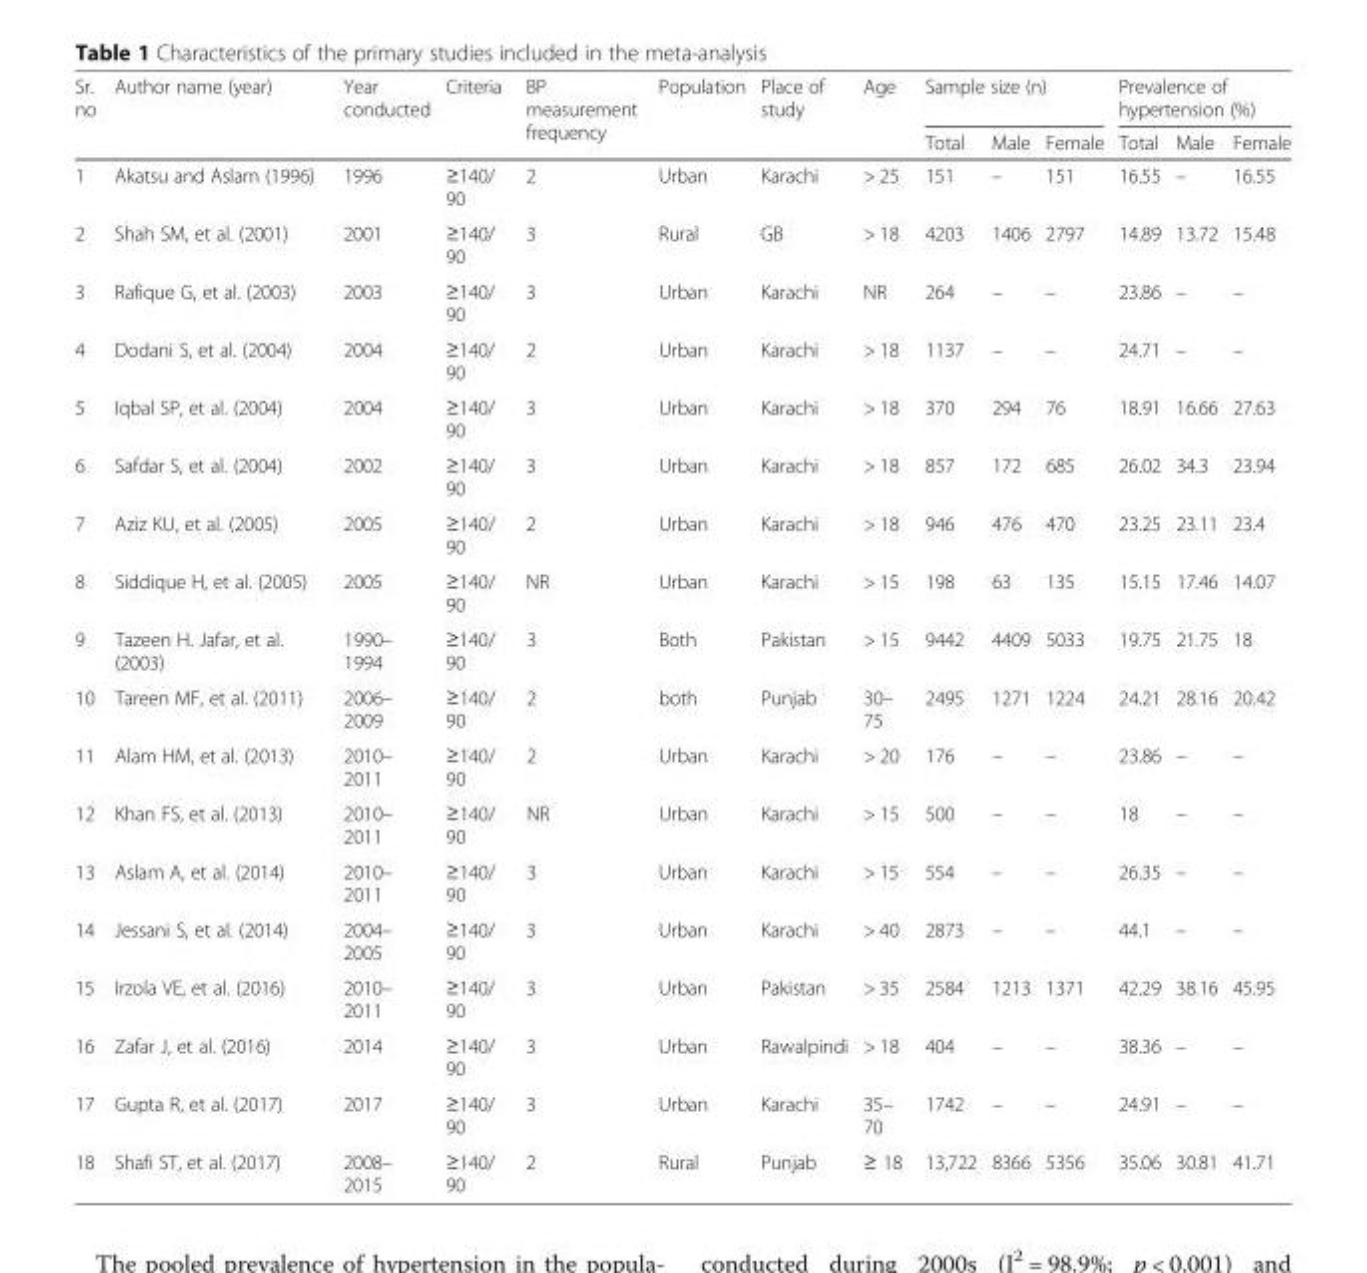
<table><thead><tr><td rowspan="2">Sr. no</td><td rowspan="2">Author name (year)</td><td rowspan="2">Year conducted</td><td rowspan="2">Criteria</td><td rowspan="2">BP measurement frequency</td><td rowspan="2">Population</td><td rowspan="2">Place of study</td><td rowspan="2">Age</td><td colspan="3">Sample size (n)</td><td colspan="3">Prevalence of hypertension (%)</td></tr><tr><td>Total</td><td>Male</td><td>Female</td><td>Total</td><td>Male</td><td>Female</td></tr></thead><tbody><tr><td>1</td><td>Akatsu and Aslam (1996)</td><td>1996</td><td>≥140/ 90</td><td>2</td><td>Urban</td><td>Karachi</td><td>&gt; 25</td><td>151</td><td>–</td><td>151</td><td>16.55</td><td>–</td><td>16.55</td></tr><tr><td>2</td><td>Shah SM, et al. (2001)</td><td>2001</td><td>≥140/ 90</td><td>3</td><td>Rural</td><td>GB</td><td>&gt; 18</td><td>4203</td><td>1406</td><td>2797</td><td>14.89</td><td>13.72</td><td>15.48</td></tr><tr><td>3</td><td>Rafique G, et al. (2003)</td><td>2003</td><td>≥140/ 90</td><td>3</td><td>Urban</td><td>Karachi</td><td>NR</td><td>264</td><td>–</td><td>–</td><td>23.86</td><td>–</td><td>–</td></tr><tr><td>4</td><td>Dodani S, et al. (2004)</td><td>2004</td><td>≥140/ 90</td><td>2</td><td>Urban</td><td>Karachi</td><td>&gt; 18</td><td>1137</td><td>–</td><td>–</td><td>24.71</td><td>–</td><td>–</td></tr><tr><td>5</td><td>Iqbal SP, et al. (2004)</td><td>2004</td><td>≥140/ 90</td><td>3</td><td>Urban</td><td>Karachi</td><td>&gt; 18</td><td>370</td><td>294</td><td>76</td><td>18.91</td><td>16.66</td><td>27.63</td></tr><tr><td>6</td><td>Safdar S, et al. (2004)</td><td>2002</td><td>≥140/ 90</td><td>3</td><td>Urban</td><td>Karachi</td><td>&gt; 18</td><td>857</td><td>172</td><td>685</td><td>26.02</td><td>34.3</td><td>23.94</td></tr><tr><td>7</td><td>Aziz KU, et al. (2005)</td><td>2005</td><td>≥140/ 90</td><td>2</td><td>Urban</td><td>Karachi</td><td>&gt; 18</td><td>946</td><td>476</td><td>470</td><td>23.25</td><td>23.11</td><td>23.4</td></tr><tr><td>8</td><td>Siddique H, et al. (2005)</td><td>2005</td><td>≥140/ 90</td><td>NR</td><td>Urban</td><td>Karachi</td><td>&gt; 15</td><td>198</td><td>63</td><td>135</td><td>15.15</td><td>17.46</td><td>14.07</td></tr><tr><td>9</td><td>Tazeen H. Jafar, et al. (2003)</td><td>1990– 1994</td><td>≥140/ 90</td><td>3</td><td>Both</td><td>Pakistan</td><td>&gt; 15</td><td>9442</td><td>4409</td><td>5033</td><td>19.75</td><td>21.75</td><td>18</td></tr><tr><td>10</td><td>Tareen MF, et al. (2011)</td><td>2006– 2009</td><td>≥140/ 90</td><td>2</td><td>both</td><td>Punjab</td><td>30– 75</td><td>2495</td><td>1271</td><td>1224</td><td>24.21</td><td>28.16</td><td>20.42</td></tr><tr><td>11</td><td>Alam HM, et al. (2013)</td><td>2010– 2011</td><td>≥140/ 90</td><td>2</td><td>Urban</td><td>Karachi</td><td>&gt; 20</td><td>176</td><td>–</td><td>–</td><td>23.86</td><td>–</td><td>–</td></tr><tr><td>12</td><td>Khan FS, et al. (2013)</td><td>2010– 2011</td><td>≥140/ 90</td><td>NR</td><td>Urban</td><td>Karachi</td><td>&gt; 15</td><td>500</td><td>–</td><td>–</td><td>18</td><td>–</td><td>–</td></tr><tr><td>13</td><td>Aslam A, et al. (2014)</td><td>2010– 2011</td><td>≥140/ 90</td><td>3</td><td>Urban</td><td>Karachi</td><td>&gt; 15</td><td>554</td><td>–</td><td>–</td><td>26.35</td><td>–</td><td>–</td></tr><tr><td>14</td><td>Jessani S, et al. (2014)</td><td>2004– 2005</td><td>≥140/ 90</td><td>3</td><td>Urban</td><td>Karachi</td><td>&gt; 40</td><td>2873</td><td>–</td><td>–</td><td>44.1</td><td>–</td><td>–</td></tr><tr><td>15</td><td>Irzola VE, et al. (2016)</td><td>2010– 2011</td><td>≥140/ 90</td><td>3</td><td>Urban</td><td>Pakistan</td><td>&gt; 35</td><td>2584</td><td>1213</td><td>1371</td><td>42.29</td><td>38.16</td><td>45.95</td></tr><tr><td>16</td><td>Zafar J, et al. (2016)</td><td>2014</td><td>≥140/ 90</td><td>3</td><td>Urban</td><td>Rawalpindi</td><td>&gt; 18</td><td>404</td><td>–</td><td>–</td><td>38.36</td><td>–</td><td>–</td></tr><tr><td>17</td><td>Gupta R, et al. (2017)</td><td>2017</td><td>≥140/ 90</td><td>3</td><td>Urban</td><td>Karachi</td><td>35– 70</td><td>1742</td><td>–</td><td>–</td><td>24.91</td><td>–</td><td>–</td></tr><tr><td>18</td><td>Shafi ST, et al. (2017)</td><td>2008– 2015</td><td>≥140/ 90</td><td>2</td><td>Rural</td><td>Punjab</td><td>≥ 18</td><td>13,722</td><td>8366</td><td>5356</td><td>35.06</td><td>30.81</td><td>41.71</td></tr></tbody></table>